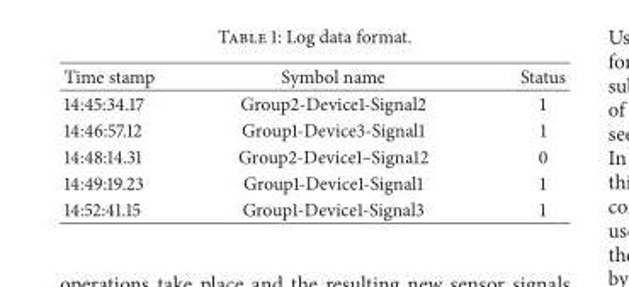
<table><thead><tr><td>Time stamp</td><td>Symbol name</td><td>Status</td></tr></thead><tbody><tr><td>14:45:34.17</td><td>Group2-Device1-Signal2</td><td>1</td></tr><tr><td>14:46:57.12</td><td>Group1-Device3-Signal1</td><td>1</td></tr><tr><td>14:48:14.31</td><td>Group2-Device1–Signa12</td><td>0</td></tr><tr><td>14:49:19.23</td><td>Group1-Device1-Signal1</td><td>1</td></tr><tr><td>14:52:41.15</td><td>Group1-Device1-Signal3</td><td>1</td></tr></tbody></table>